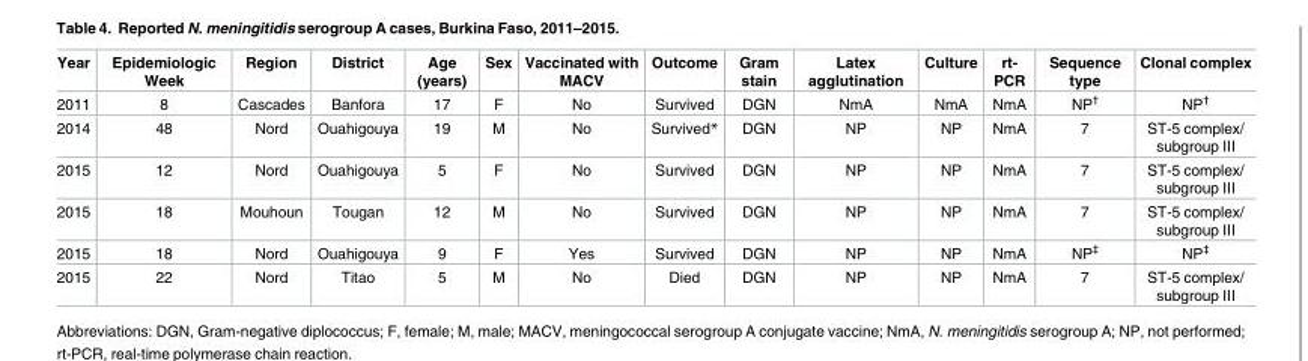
<table><thead><tr><td>Year</td><td>Epidemiologic Week</td><td>Region</td><td>District</td><td>Age (years)</td><td>Sex</td><td>Vaccinated with MACV</td><td>Outcome</td><td>Gram stain</td><td>Latex agglutination</td><td>Culture</td><td>rt- PCR</td><td>Sequence type</td><td>Clonal complex</td></tr></thead><tbody><tr><td>2011</td><td>8</td><td>Cascades</td><td>Banfora</td><td>17</td><td>F</td><td>No</td><td>Survived</td><td>DGN</td><td>NmA</td><td>NmA</td><td>NmA</td><td>NP<sup>†</sup></td><td>NP<sup>†</sup></td></tr><tr><td>2014</td><td>48</td><td>Nord</td><td>Ouahigouya</td><td>19</td><td>M</td><td>No</td><td>Survived*</td><td>DGN</td><td>NP</td><td>NP</td><td>NmA</td><td>7</td><td>ST-5 complex/ subgroup III</td></tr><tr><td>2015</td><td>12</td><td>Nord</td><td>Ouahigouya</td><td>5</td><td>F</td><td>No</td><td>Survived</td><td>DGN</td><td>NP</td><td>NP</td><td>NmA</td><td>7</td><td>ST-5 complex/ subgroup III</td></tr><tr><td>2015</td><td>18</td><td>Mouhoun</td><td>Tougan</td><td>12</td><td>M</td><td>No</td><td>Survived</td><td>DGN</td><td>NP</td><td>NP</td><td>NmA</td><td>7</td><td>ST-5 complex/ subgroup III</td></tr><tr><td>2015</td><td>18</td><td>Nord</td><td>Ouahigouya</td><td>9</td><td>F</td><td>Yes</td><td>Survived</td><td>DGN</td><td>NP</td><td>NP</td><td>NmA</td><td>NP<sup>‡</sup></td><td>NP<sup>‡</sup></td></tr><tr><td>2015</td><td>22</td><td>Nord</td><td>Titao</td><td>5</td><td>M</td><td>No</td><td>Died</td><td>DGN</td><td>NP</td><td>NP</td><td>NmA</td><td>7</td><td>ST-5 complex/ subgroup III</td></tr></tbody></table>